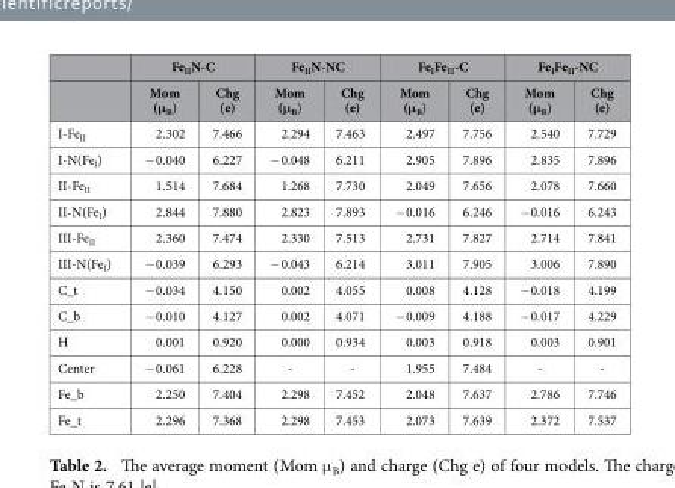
<table><thead><tr><td rowspan="2"></td><td colspan="2">Fe<sub>II</sub>N-C</td><td colspan="2">Fe<sub>II</sub>N-NC</td><td colspan="2">Fe<sub>I</sub>Fe<sub>II</sub>-C</td><td colspan="2">Fe<sub>I</sub>Fe<sub>II</sub>-NC</td></tr><tr><td>Mom (μ<sub>B</sub>)</td><td>Chg (e)</td><td>Mom (μ<sub>B</sub>)</td><td>Chg (e)</td><td>Mom (μ<sub>B</sub>)</td><td>Chg (e)</td><td>Mom (μ<sub>B</sub>)</td><td>Chg (e)</td></tr></thead><tbody><tr><td>I-Fe<sub>II</sub></td><td>2.302</td><td>7.466</td><td>2.294</td><td>7.463</td><td>2.497</td><td>7.756</td><td>2.540</td><td>7.729</td></tr><tr><td>I-N(Fe<sub>I</sub>)</td><td>− 0.040</td><td>6.227</td><td>− 0.048</td><td>6.211</td><td>2.905</td><td>7.896</td><td>2.835</td><td>7.896</td></tr><tr><td>II-Fe<sub>II</sub></td><td>1.514</td><td>7.684</td><td>1.268</td><td>7.730</td><td>2.049</td><td>7.656</td><td>2.078</td><td>7.660</td></tr><tr><td>II-N(Fe<sub>I</sub>)</td><td>2.844</td><td>7.880</td><td>2.823</td><td>7.893</td><td>− 0.016</td><td>6.246</td><td>− 0.016</td><td>6.243</td></tr><tr><td>III-Fe<sub>II</sub></td><td>2.360</td><td>7.474</td><td>2.330</td><td>7.513</td><td>2.731</td><td>7.827</td><td>2.714</td><td>7.841</td></tr><tr><td>III-N(Fe<sub>I</sub>)</td><td>− 0.039</td><td>6.293</td><td>− 0.043</td><td>6.214</td><td>3.011</td><td>7.905</td><td>3.006</td><td>7.890</td></tr><tr><td>C_t</td><td>− 0.034</td><td>4.150</td><td>0.002</td><td>4.055</td><td>0.008</td><td>4.128</td><td>− 0.018</td><td>4.199</td></tr><tr><td>C_b</td><td>− 0.010</td><td>4.127</td><td>0.002</td><td>4.071</td><td>− 0.009</td><td>4.188</td><td>− 0.017</td><td>4.229</td></tr><tr><td>H</td><td>0.001</td><td>0.920</td><td>0.000</td><td>0.934</td><td>0.003</td><td>0.918</td><td>0.003</td><td>0.901</td></tr><tr><td>Center</td><td>− 0.061</td><td>6.228</td><td>-</td><td>-</td><td>1.955</td><td>7.484</td><td>-</td><td>-</td></tr><tr><td>Fe_b</td><td>2.250</td><td>7.404</td><td>2.298</td><td>7.452</td><td>2.048</td><td>7.637</td><td>2.786</td><td>7.746</td></tr><tr><td>Fe_t</td><td>2.296</td><td>7.368</td><td>2.298</td><td>7.453</td><td>2.073</td><td>7.639</td><td>2.372</td><td>7.537</td></tr></tbody></table>